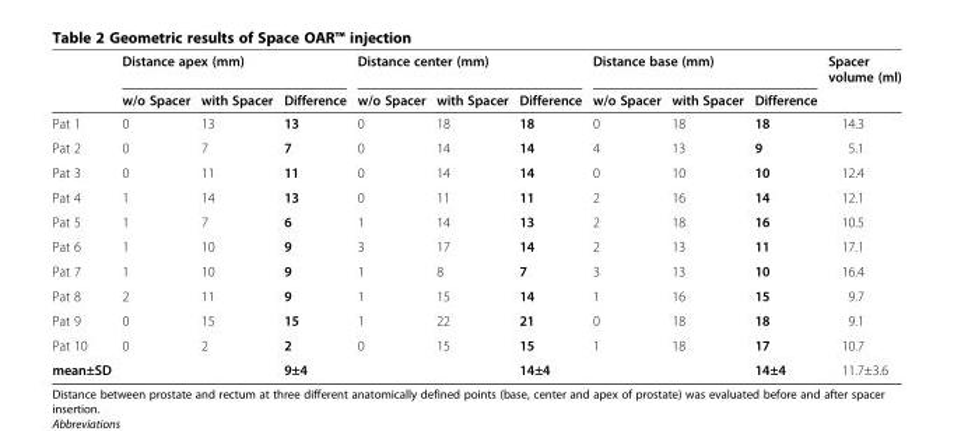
<table><thead><tr><td rowspan="2"></td><td colspan="3">Distance apex (mm)</td><td colspan="3">Distance center (mm)</td><td colspan="3">Distance base (mm)</td><td rowspan="2">Spacer volume (ml)</td></tr><tr><td>w/o Spacer</td><td>with Spacer</td><td>Difference</td><td>w/o Spacer</td><td>with Spacer</td><td>Difference</td><td>w/o Spacer</td><td>with Spacer</td><td>Difference</td></tr></thead><tbody><tr><td>Pat 1</td><td>0</td><td>13</td><td>13</td><td>0</td><td>18</td><td>18</td><td>0</td><td>18</td><td>18</td><td>14.3</td></tr><tr><td>Pat 2</td><td>0</td><td>7</td><td>7</td><td>0</td><td>14</td><td>14</td><td>4</td><td>13</td><td>9</td><td>5.1</td></tr><tr><td>Pat 3</td><td>0</td><td>11</td><td>11</td><td>0</td><td>14</td><td>14</td><td>0</td><td>10</td><td>10</td><td>12.4</td></tr><tr><td>Pat 4</td><td>1</td><td>14</td><td>13</td><td>0</td><td>11</td><td>11</td><td>2</td><td>16</td><td>14</td><td>12.1</td></tr><tr><td>Pat 5</td><td>1</td><td>7</td><td>6</td><td>1</td><td>14</td><td>13</td><td>2</td><td>18</td><td>16</td><td>10.5</td></tr><tr><td>Pat 6</td><td>1</td><td>10</td><td>9</td><td>3</td><td>17</td><td>14</td><td>2</td><td>13</td><td>11</td><td>17.1</td></tr><tr><td>Pat 7</td><td>1</td><td>10</td><td>9</td><td>1</td><td>8</td><td>7</td><td>3</td><td>13</td><td>10</td><td>16.4</td></tr><tr><td>Pat 8</td><td>2</td><td>11</td><td>9</td><td>1</td><td>15</td><td>14</td><td>1</td><td>16</td><td>15</td><td>9.7</td></tr><tr><td>Pat 9</td><td>0</td><td>15</td><td>15</td><td>1</td><td>22</td><td>21</td><td>0</td><td>18</td><td>18</td><td>9.1</td></tr><tr><td>Pat 10</td><td>0</td><td>2</td><td>2</td><td>0</td><td>15</td><td>15</td><td>1</td><td>18</td><td>17</td><td>10.7</td></tr><tr><td>mean±SD</td><td></td><td></td><td>9±4</td><td></td><td></td><td>14±4</td><td></td><td></td><td>14±4</td><td>11.7±3.6</td></tr></tbody></table>